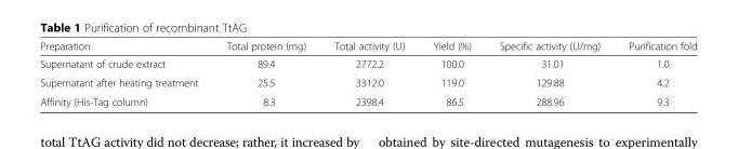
<table><thead><tr><td>Preparation</td><td>Total protein (mg)</td><td>Total activity (U)</td><td>Yield (%)</td><td>Specific activity (U/mg)</td><td>Purification fold</td></tr></thead><tbody><tr><td>Supernatant of crude extract</td><td>89.4</td><td>2772.2</td><td>100.0</td><td>31.01</td><td>1.0</td></tr><tr><td>Supernatant after heating treatment</td><td>25.5</td><td>3312.0</td><td>119.0</td><td>129.88</td><td>4.2</td></tr><tr><td>Affinity (His-Tag column)</td><td>8.3</td><td>2398.4</td><td>86.5</td><td>288.96</td><td>9.3</td></tr></tbody></table>